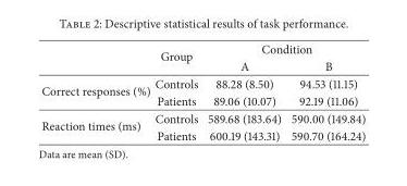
<table><thead><tr><td rowspan="2"></td><td rowspan="2">Group</td><td colspan="2">Condition</td></tr><tr><td>A</td><td>B</td></tr></thead><tbody><tr><td rowspan="2">Correct responses (%)</td><td>Controls</td><td>88.28 (8.50)</td><td>94.53 (11.15)</td></tr><tr><td>Patients</td><td>89.06 (10.07)</td><td>92.19 (11.06)</td></tr><tr><td rowspan="2">Reaction times (ms)</td><td>Controls</td><td>589.68 (183.64)</td><td>590.00 (149.84)</td></tr><tr><td>Patients</td><td>600.19 (143.31)</td><td>590.70 (164.24)</td></tr></tbody></table>